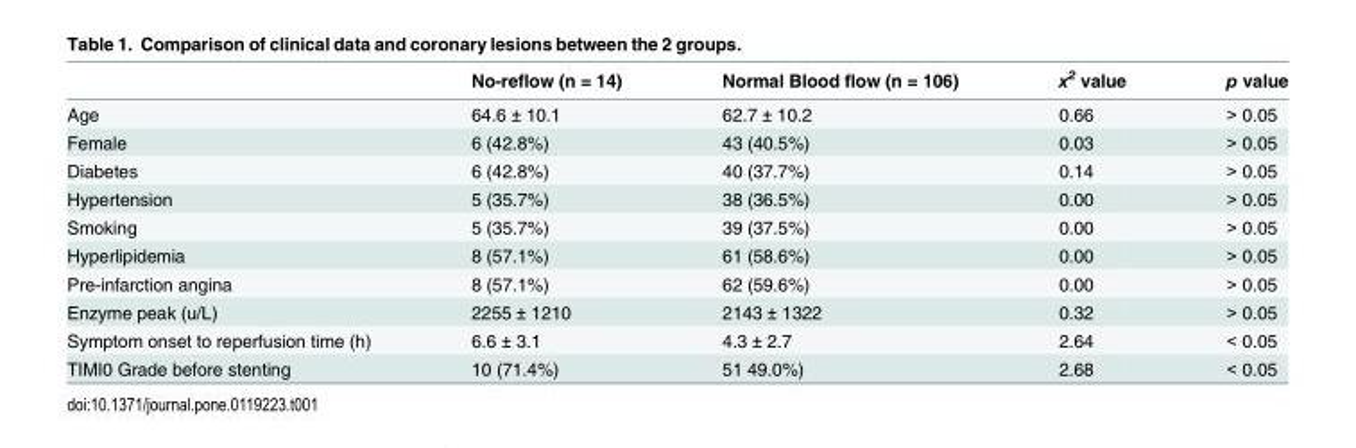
<table><thead><tr><td></td><td>No-reflow (n = 14)</td><td>Normal Blood flow (n = 106)</td><td>x<sup>2</sup> value</td><td>p value</td></tr></thead><tbody><tr><td>Age</td><td>64.6 ± 10.1</td><td>62.7 ± 10.2</td><td>0.66</td><td>&gt; 0.05</td></tr><tr><td>Female</td><td>6 (42.8%)</td><td>43 (40.5%)</td><td>0.03</td><td>&gt; 0.05</td></tr><tr><td>Diabetes</td><td>6 (42.8%)</td><td>40 (37.7%)</td><td>0.14</td><td>&gt; 0.05</td></tr><tr><td>Hypertension</td><td>5 (35.7%)</td><td>38 (36.5%)</td><td>0.00</td><td>&gt; 0.05</td></tr><tr><td>Smoking</td><td>5 (35.7%)</td><td>39 (37.5%)</td><td>0.00</td><td>&gt; 0.05</td></tr><tr><td>Hyperlipidemia</td><td>8 (57.1%)</td><td>61 (58.6%)</td><td>0.00</td><td>&gt; 0.05</td></tr><tr><td>Pre-infarction angina</td><td>8 (57.1%)</td><td>62 (59.6%)</td><td>0.00</td><td>&gt; 0.05</td></tr><tr><td>Enzyme peak (u/L)</td><td>2255 ± 1210</td><td>2143 ± 1322</td><td>0.32</td><td>&gt; 0.05</td></tr><tr><td>Symptom onset to reperfusion time (h)</td><td>6.6 ± 3.1</td><td>4.3 ± 2.7</td><td>2.64</td><td>&lt; 0.05</td></tr><tr><td>TIMI0 Grade before stenting</td><td>10 (71.4%)</td><td>51 49.0%)</td><td>2.68</td><td>&lt; 0.05</td></tr></tbody></table>